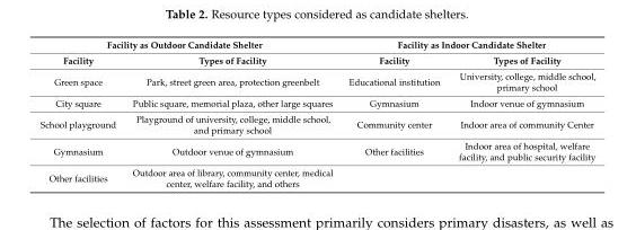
<table><thead><tr><td colspan="2">Facility as Outdoor Candidate Shelter</td><td colspan="2">Facility as Indoor Candidate Shelter</td></tr><tr><td>Facility</td><td>Types of Facility</td><td>Facility</td><td>Types of Facility</td></tr></thead><tbody><tr><td>Green space</td><td>Park, street green area, protection greenbelt</td><td>Educational institution</td><td>University, college, middle school, primary school</td></tr><tr><td>City square</td><td>Public square, memorial plaza, other large squares</td><td>Gymnasium</td><td>Indoor venue of gymnasium</td></tr><tr><td>School playground</td><td>Playground of university, college, middle school, and primary school</td><td>Community center</td><td>Indoor area of community Center</td></tr><tr><td>Gymnasium</td><td>Outdoor venue of gymnasium</td><td>Other facilities</td><td>Indoor area of hospital, welfare facility, and public security facility</td></tr><tr><td>Other facilities</td><td>Outdoor area of library, community center, medical center, welfare facility, and others</td><td></td><td></td></tr></tbody></table>